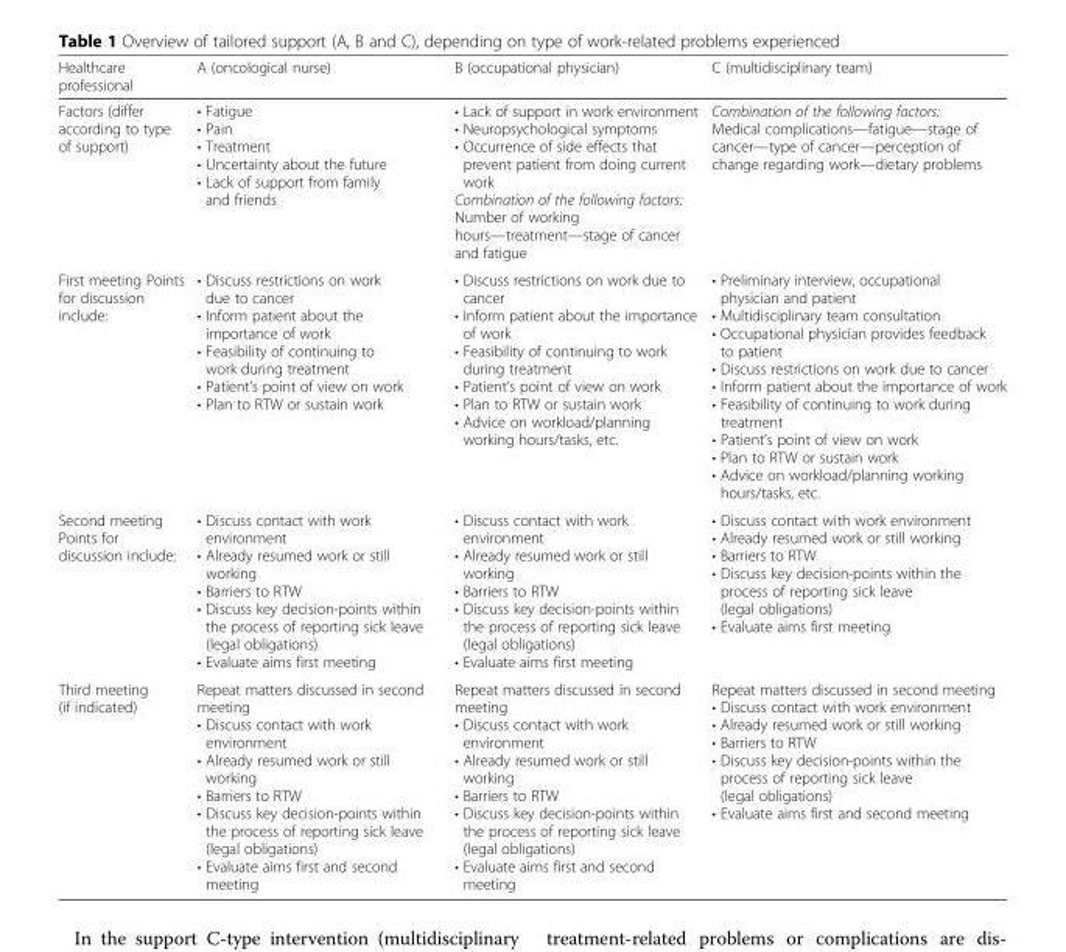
<table><thead><tr><td>Healthcare professional</td><td>A (oncological nurse)</td><td>B (occupational physician)</td><td>C (multidisciplinary team)</td></tr></thead><tbody><tr><td>Factors (differ according to type of support)</td><td>• Fatigue • Pain • Treatment • Uncertainty about the future • Lack of support from family and friends</td><td>• Lack of support in work environment • Neuropsychological symptoms • Occurrence of side effects that prevent patient from doing current work Combination of the following factors: Number of working hours—treatment—stage of cancer and fatigue</td><td>Combination of the following factors: Medical complications—fatigue—stage of cancer—type of cancer—perception of change regarding work—dietary problems</td></tr><tr><td>First meeting Points for discussion include:</td><td>• Discuss restrictions on work due to cancer • Inform patient about the importance of work • Feasibility of continuing to work during treatment • Patient’s point of view on work • Plan to RTW or sustain work</td><td>• Discuss restrictions on work due to cancer • Inform patient about the importance of work • Feasibility of continuing to work during treatment • Patient’s point of view on work • Plan to RTW or sustain work • Advice on workload/planning working hours/tasks, etc.</td><td>• Preliminary interview, occupational physician and patient • Multidisciplinary team consultation • Occupational physician provides feedback to patient • Discuss restrictions on work due to cancer • Inform patient about the importance of work • Feasibility of continuing to work during treatment • Patient’s point of view on work • Plan to RTW or sustain work • Advice on workload/planning working hours/tasks, etc.</td></tr><tr><td>Second meeting Points for discussion include:</td><td>• Discuss contact with work environment • Already resumed work or still working • Barriers to RTW • Discuss key decision-points within the process of reporting sick leave (legal obligations) • Evaluate aims first meeting</td><td>• Discuss contact with work environment • Already resumed work or still working • Barriers to RTW • Discuss key decision-points within the process of reporting sick leave (legal obligations) • Evaluate aims first meeting</td><td>• Discuss contact with work environment • Already resumed work or still working • Barriers to RTW • Discuss key decision-points within the process of reporting sick leave (legal obligations) • Evaluate aims first meeting</td></tr><tr><td>Third meeting (if indicated)</td><td>Repeat matters discussed in second meeting • Discuss contact with work environment • Already resumed work or still working • Barriers to RTW • Discuss key decision-points within the process of reporting sick leave (legal obligations) • Evaluate aims first and second meeting</td><td>Repeat matters discussed in second meeting • Discuss contact with work environment • Already resumed work or still working • Barriers to RTW • Discuss key decision-points within the process of reporting sick leave (legal obligations) • Evaluate aims first and second meeting</td><td>Repeat matters discussed in second meeting • Discuss contact with work environment • Already resumed work or still working • Barriers to RTW • Discuss key decision-points within the process of reporting sick leave (legal obligations) • Evaluate aims first and second meeting</td></tr></tbody></table>